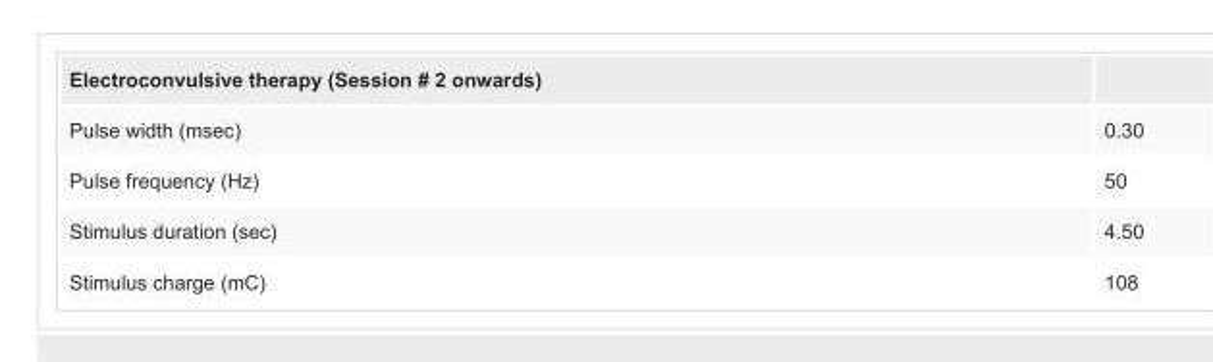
<table><tbody><tr><td colspan="2">Electroconvulsive therapy (Session # 2 onwards)</td></tr><tr><td>Pulse width (msec)</td><td>0.30</td></tr><tr><td>Pulse frequency (Hz)</td><td>50</td></tr><tr><td>Stimulus duration (sec)</td><td>4.50</td></tr><tr><td>Stimulus charge (mC)</td><td>108</td></tr></tbody></table>